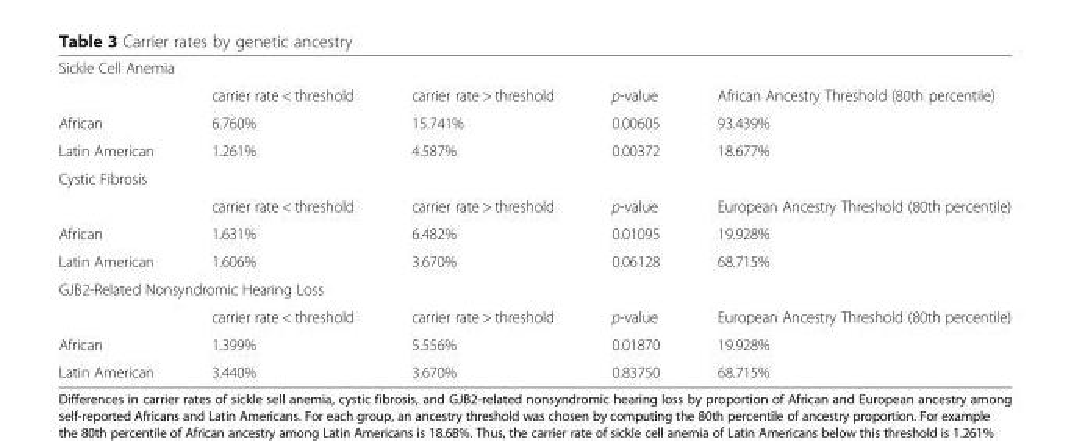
<table><tbody><tr><td colspan="5">Sickle Cell Anemia</td></tr><tr><td></td><td>carrier rate &lt; threshold</td><td>carrier rate &gt; threshold</td><td>p-value</td><td>African Ancestry Threshold (80th percentile)</td></tr><tr><td>African</td><td>6.760%</td><td>15.741%</td><td>0.00605</td><td>93.439%</td></tr><tr><td>Latin American</td><td>1.261%</td><td>4.587%</td><td>0.00372</td><td>18.677%</td></tr><tr><td colspan="5">Cystic Fibrosis</td></tr><tr><td></td><td>carrier rate &lt; threshold</td><td>carrier rate &gt; threshold</td><td>p-value</td><td>European Ancestry Threshold (80th percentile)</td></tr><tr><td>African</td><td>1.631%</td><td>6.482%</td><td>0.01095</td><td>19.928%</td></tr><tr><td>Latin American</td><td>1.606%</td><td>3.670%</td><td>0.06128</td><td>68.715%</td></tr><tr><td colspan="5">GJB2-Related Nonsyndromic Hearing Loss</td></tr><tr><td></td><td>carrier rate &lt; threshold</td><td>carrier rate &gt; threshold</td><td>p-value</td><td>European Ancestry Threshold (80th percentile)</td></tr><tr><td>African</td><td>1.399%</td><td>5.556%</td><td>0.01870</td><td>19.928%</td></tr><tr><td>Latin American</td><td>3.440%</td><td>3.670%</td><td>0.83750</td><td>68.715%</td></tr></tbody></table>